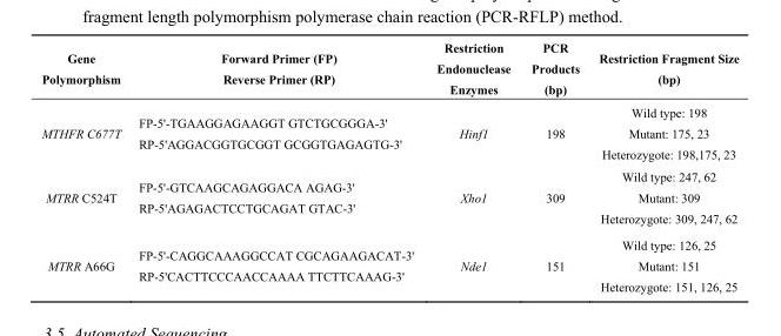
<table><thead><tr><td>Gene Polymorphism</td><td>Forward Primer (FP) Reverse Primer (RP)</td><td>Restriction Endonuclease Enzymes</td><td>PCR Products (bp)</td><td>Restriction Fragment Size (bp)</td></tr></thead><tbody><tr><td>MTHFR C677T</td><td>FP-5&#x27;-TGAAGGAGAAGGT GTCTGCGGGA-3&#x27; RP-5&#x27;AGGACGGTGCGGT GCGGTGAGAGTG-3&#x27;</td><td>Hinf1</td><td>198</td><td>Wild type: 198 Mutant: 175, 23 Heterozygote: 198,175, 23</td></tr><tr><td>MTRR C524T</td><td>FP-5&#x27;-GTCAAGCAGAGGACA AGAG-3&#x27; RP-5&#x27;AGAGACTCCTGCAGAT GTAC-3&#x27;</td><td>Xho1</td><td>309</td><td>Wild type: 247, 62 Mutant: 309 Heterozygote: 309, 247, 62</td></tr><tr><td>MTRR A66G</td><td>FP-5&#x27;-CAGGCAAAGGCCAT CGCAGAAGACAT-3&#x27; RP-5&#x27;CACTTCCCAACCAAAA TTCTTCAAAG-3&#x27;</td><td>Nde1</td><td>151</td><td>Wild type: 126, 25 Mutant: 151 Heterozygote: 151, 126, 25</td></tr></tbody></table>